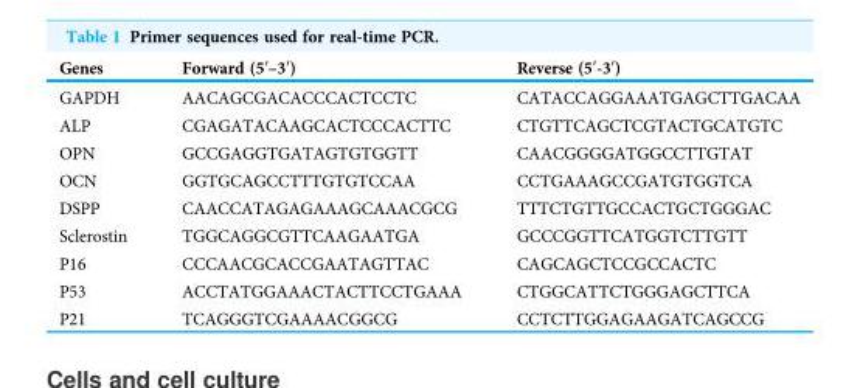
<table><thead><tr><td>Genes</td><td>Forward (5′–3′)</td><td>Reverse (5′-3′)</td></tr></thead><tbody><tr><td>GAPDH</td><td>AACAGCGACACCCACTCCTC</td><td>CATACCAGGAAATGAGCTTGACAA</td></tr><tr><td>ALP</td><td>CGAGATACAAGCACTCCCACTTC</td><td>CTGTTCAGCTCGTACTGCATGTC</td></tr><tr><td>OPN</td><td>GCCGAGGTGATAGTGTGGTT</td><td>CAACGGGGATGGCCTTGTAT</td></tr><tr><td>OCN</td><td>GGTGCAGCCTTTGTGTCCAA</td><td>CCTGAAAGCCGATGTGGTCA</td></tr><tr><td>DSPP</td><td>CAACCATAGAGAAAGCAAACGCG</td><td>TTTCTGTTGCCACTGCTGGGAC</td></tr><tr><td>Sclerostin</td><td>TGGCAGGCGTTCAAGAATGA</td><td>GCCCGGTTCATGGTCTTGTT</td></tr><tr><td>P16</td><td>CCCAACGCACCGAATAGTTAC</td><td>CAGCAGCTCCGCCACTC</td></tr><tr><td>P53</td><td>ACCTATGGAAACTACTTCCTGAAA</td><td>CTGGCATTCTGGGAGCTTCA</td></tr><tr><td>P21</td><td>TCAGGGTCGAAAACGGCG</td><td>CCTCTTGGAGAAGATCAGCCG</td></tr></tbody></table>